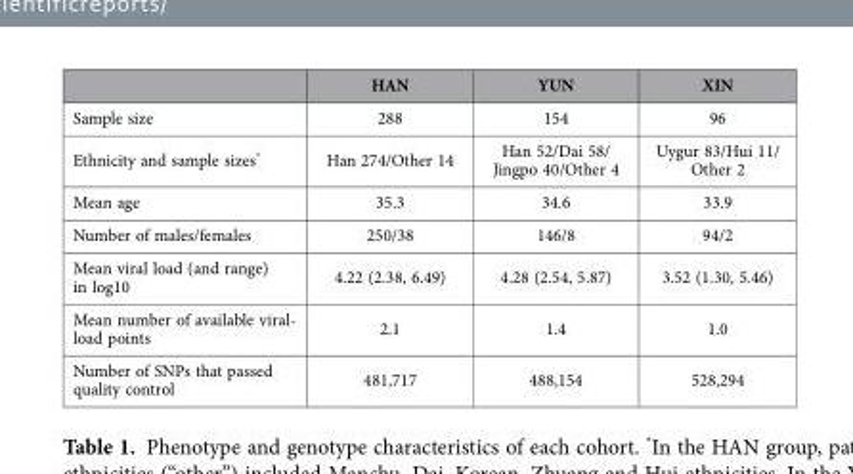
<table><thead><tr><td></td><td>HAN</td><td>YUN</td><td>XIN</td></tr></thead><tbody><tr><td>Sample size</td><td>288</td><td>154</td><td>96</td></tr><tr><td>Ethnicity and sample sizes*</td><td>Han 274/Other 14</td><td>Han 52/Dai 58/ Jingpo 40/Other 4</td><td>Uygur 83/Hui 11/ Other 2</td></tr><tr><td>Mean age</td><td>35.3</td><td>34.6</td><td>33.9</td></tr><tr><td>Number of males/females</td><td>250/38</td><td>146/8</td><td>94/2</td></tr><tr><td>Mean viral load (and range) in log10</td><td>4.22 (2.38, 6.49)</td><td>4.28 (2.54, 5.87)</td><td>3.52 (1.30, 5.46)</td></tr><tr><td>Mean number of available viral- load points</td><td>2.1</td><td>1.4</td><td>1.0</td></tr><tr><td>Number of SNPs that passed quality control</td><td>481,717</td><td>488,154</td><td>528,294</td></tr></tbody></table>